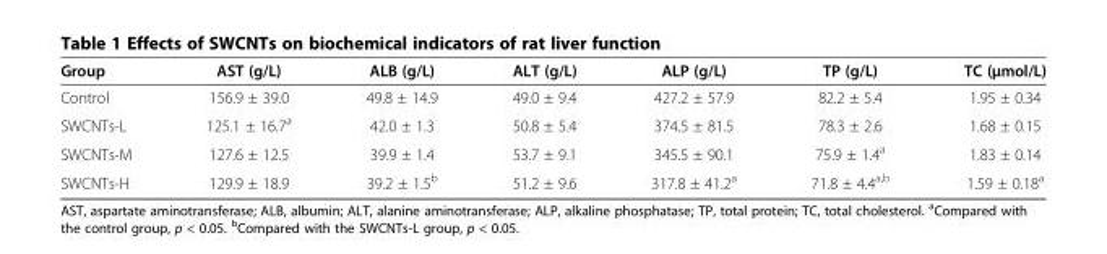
<table><thead><tr><td>Group</td><td>AST (g/L)</td><td>ALB (g/L)</td><td>ALT (g/L)</td><td>ALP (g/L)</td><td>TP (g/L)</td><td>TC (μmol/L)</td></tr></thead><tbody><tr><td>Control</td><td>156.9 ± 39.0</td><td>49.8 ± 14.9</td><td>49.0 ± 9.4</td><td>427.2 ± 57.9</td><td>82.2 ± 5.4</td><td>1.95 ± 0.34</td></tr><tr><td>SWCNTs-L</td><td>125.1 ± 16.7<sup>a</sup></td><td>42.0 ± 1.3</td><td>50.8 ± 5.4</td><td>374.5 ± 81.5</td><td>78.3 ± 2.6</td><td>1.68 ± 0.15</td></tr><tr><td>SWCNTs-M</td><td>127.6 ± 12.5</td><td>39.9 ± 1.4</td><td>53.7 ± 9.1</td><td>345.5 ± 90.1</td><td>75.9 ± 1.4<sup>a</sup></td><td>1.83 ± 0.14</td></tr><tr><td>SWCNTs-H</td><td>129.9 ± 18.9</td><td>39.2 ± 1.5<sup>b</sup></td><td>51.2 ± 9.6</td><td>317.8 ± 41.2<sup>a</sup></td><td>71.8 ± 4.4<sup>a,b</sup></td><td>1.59 ± 0.18<sup>a</sup></td></tr></tbody></table>